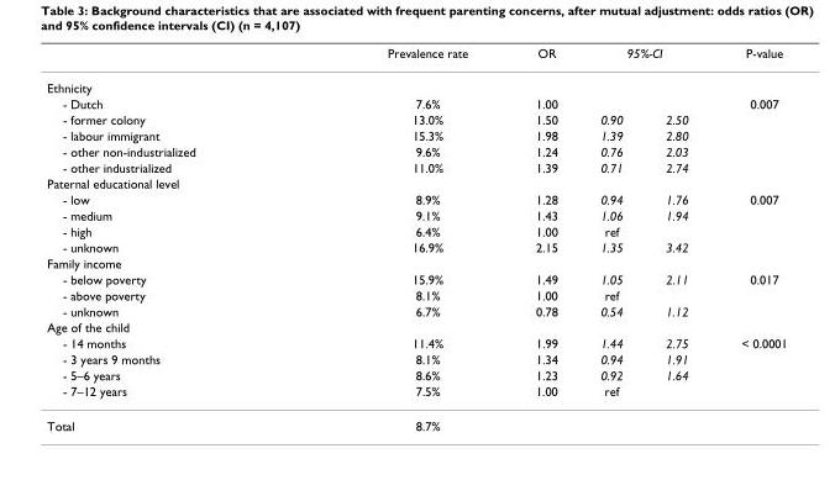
<table><thead><tr><td rowspan="2">Ethnicity</td><td rowspan="2">Prevalence rate</td><td rowspan="2">OR</td><td colspan="2">95%-CI</td><td rowspan="2">P-value</td></tr><tr><td></td><td></td></tr></thead><tbody><tr><td>- Dutch</td><td>7.6%</td><td>1.00</td><td></td><td></td><td>0.007</td></tr><tr><td>- former colony</td><td>13.0%</td><td>1.50</td><td>0.90</td><td>2.50</td><td></td></tr><tr><td>- labour immigrant</td><td>15.3%</td><td>1.98</td><td>1.39</td><td>2.80</td><td></td></tr><tr><td>- other non-industrialized</td><td>9.6%</td><td>1.24</td><td>0.76</td><td>2.03</td><td></td></tr><tr><td>- other industrialized</td><td>11.0%</td><td>1.39</td><td>0.71</td><td>2.74</td><td></td></tr><tr><td colspan="6">Paternal educational level</td></tr><tr><td>- low</td><td>8.9%</td><td>1.28</td><td>0.94</td><td>1.76</td><td>0.007</td></tr><tr><td>- medium</td><td>9.1%</td><td>1.43</td><td>1.06</td><td>1.94</td><td></td></tr><tr><td>- high</td><td>6.4%</td><td>1.00</td><td>ref</td><td></td><td></td></tr><tr><td>- unknown</td><td>16.9%</td><td>2.15</td><td>1.35</td><td>3.42</td><td></td></tr><tr><td colspan="6">Family income</td></tr><tr><td>- below poverty</td><td>15.9%</td><td>1.49</td><td>1.05</td><td>2.11</td><td>0.017</td></tr><tr><td>- above poverty</td><td>8.1%</td><td>1.00</td><td>ref</td><td></td><td></td></tr><tr><td>- unknown</td><td>6.7%</td><td>0.78</td><td>0.54</td><td>1.12</td><td></td></tr><tr><td colspan="6">Age of the child</td></tr><tr><td>- 14 months</td><td>11.4%</td><td>1.99</td><td>1.44</td><td>2.75</td><td>&lt; 0.0001</td></tr><tr><td>- 3 years 9 months</td><td>8.1%</td><td>1.34</td><td>0.94</td><td>1.91</td><td></td></tr><tr><td>- 5–6 years</td><td>8.6%</td><td>1.23</td><td>0.92</td><td>1.64</td><td></td></tr><tr><td>- 7–12 years</td><td>7.5%</td><td>1.00</td><td>ref</td><td></td><td></td></tr><tr><td>Total</td><td>8.7%</td><td></td><td></td><td></td><td></td></tr></tbody></table>